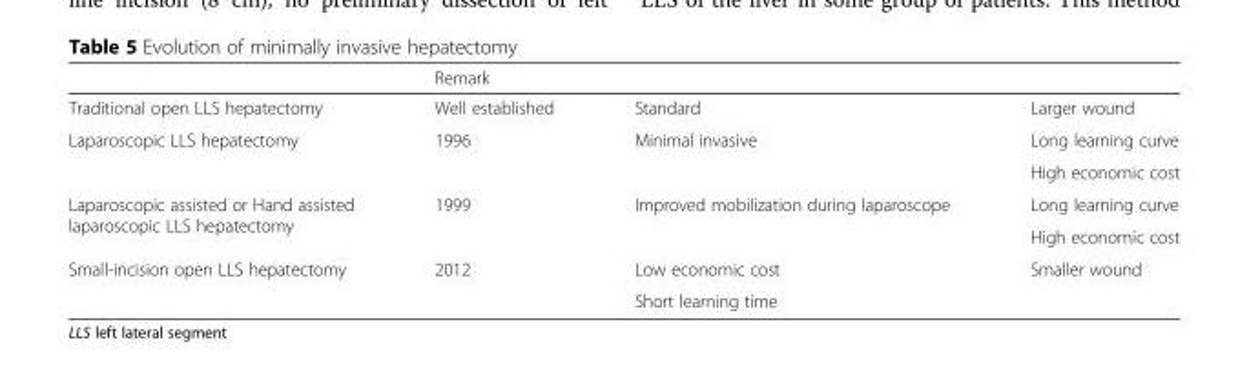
<table><thead><tr><td rowspan="2">Traditional open LLS hepatectomy</td><td colspan="3">Remark</td></tr><tr><td>Well established</td><td>Standard</td><td>Larger wound</td></tr></thead><tbody><tr><td rowspan="2">Laparoscopic LLS hepatectomy</td><td rowspan="2">1996</td><td rowspan="2">Minimal invasive</td><td>Long learning curve</td></tr><tr><td>High economic cost</td></tr><tr><td rowspan="2">Laparoscopic assisted or Hand assisted laparoscopic LLS hepatectomy</td><td rowspan="2">1999</td><td rowspan="2">Improved mobilization during laparoscope</td><td>Long learning curve</td></tr><tr><td>High economic cost</td></tr><tr><td rowspan="2">Small-incision open LLS hepatectomy</td><td rowspan="2">2012</td><td>Low economic cost</td><td rowspan="2">Smaller wound</td></tr><tr><td>Short learning time</td></tr></tbody></table>